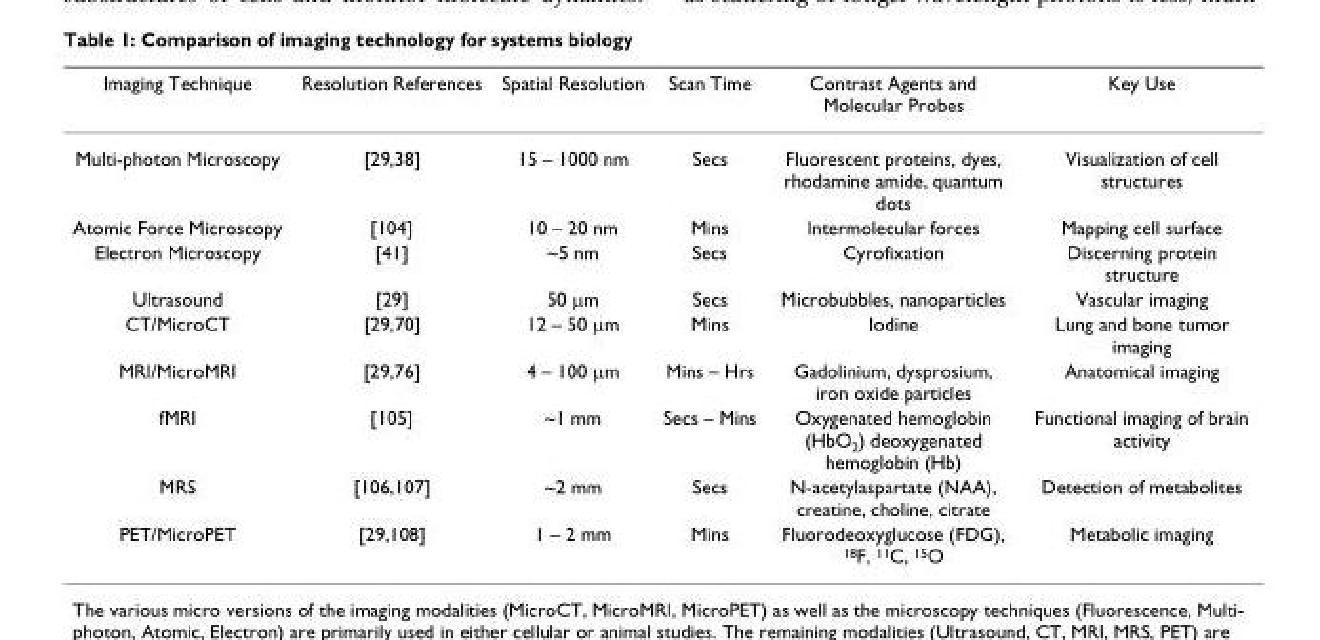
<table><thead><tr><td>Imaging Technique</td><td>Resolution References</td><td>Spatial Resolution</td><td>Scan Time</td><td>Contrast Agents and Molecular Probes</td><td>Key Use</td></tr></thead><tbody><tr><td>Multi-photon Microscopy</td><td>[29,38]</td><td>15 – 1000 nm</td><td>Secs</td><td>Fluorescent proteins, dyes, rhodamine amide, quantum dots</td><td>Visualization of cell structures</td></tr><tr><td>Atomic Force Microscopy</td><td>[104]</td><td>10 – 20 nm</td><td>Mins</td><td>Intermolecular forces</td><td>Mapping cell surface</td></tr><tr><td>Electron Microscopy</td><td>[41]</td><td>~5 nm</td><td>Secs</td><td>Cyrofixation</td><td>Discerning protein structure</td></tr><tr><td>Ultrasound</td><td>[29]</td><td>50 μm</td><td>Secs</td><td>Microbubbles, nanoparticles</td><td>Vascular imaging</td></tr><tr><td>CT/MicroCT</td><td>[29,70]</td><td>12 – 50 μm</td><td>Mins</td><td>Iodine</td><td>Lung and bone tumor imaging</td></tr><tr><td>MRI/MicroMRI</td><td>[29,76]</td><td>4 – 100 μm</td><td>Mins – Hrs</td><td>Gadolinium, dysprosium, iron oxide particles</td><td>Anatomical imaging</td></tr><tr><td>fMRI</td><td>[105]</td><td>~1 mm</td><td>Secs – Mins</td><td>Oxygenated hemoglobin (HbO<sub>2</sub>) deoxygenated hemoglobin (Hb)</td><td>Functional imaging of brain activity</td></tr><tr><td>MRS</td><td>[106,107]</td><td>~2 mm</td><td>Secs</td><td>N-acetylaspartate (NAA), creatine, choline, citrate</td><td>Detection of metabolites</td></tr><tr><td>PET/MicroPET</td><td>[29,108]</td><td>1 – 2 mm</td><td>Mins</td><td>Fluorodeoxyglucose (FDG), <sup>18</sup>F, <sup>11</sup>C, <sup>15</sup>O</td><td>Metabolic imaging</td></tr></tbody></table>